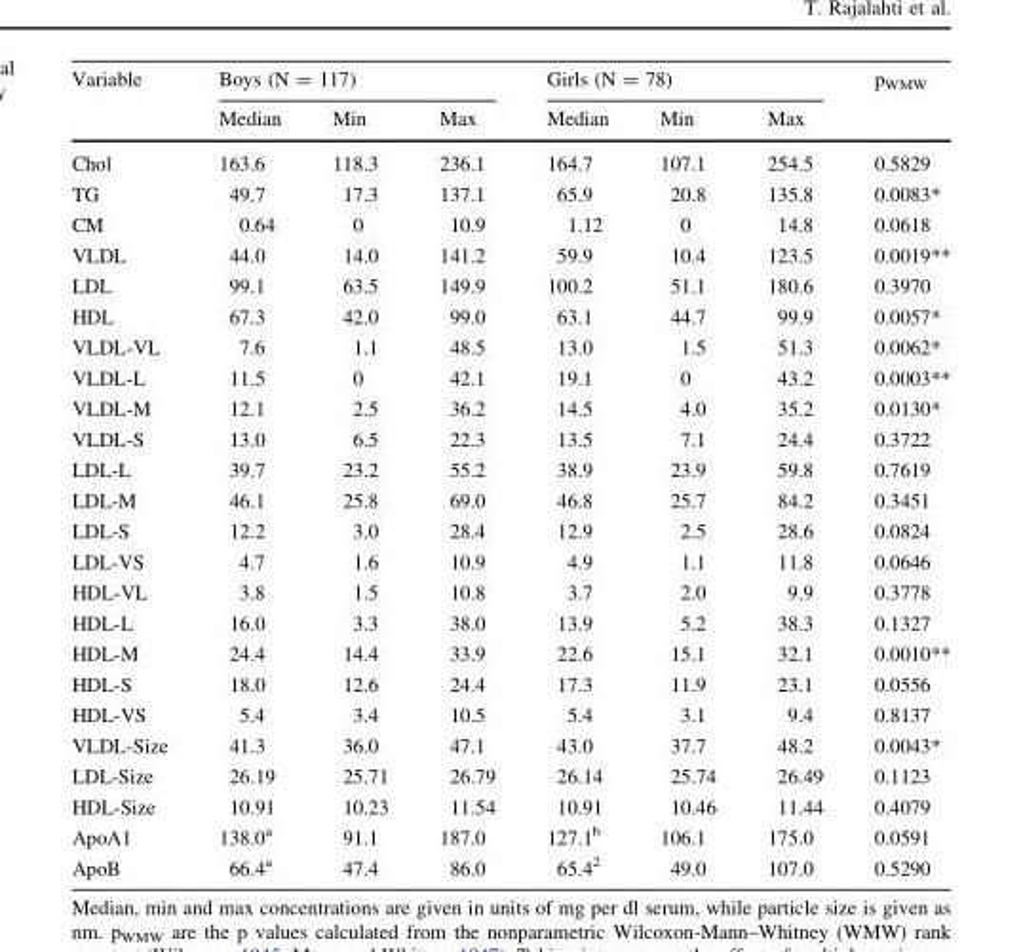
<table><thead><tr><td rowspan="2">Variable</td><td colspan="3">Boys (N = 117)</td><td colspan="3">Girls (N = 78)</td><td rowspan="2">p<sub>WMW</sub></td></tr><tr><td>Median</td><td>Min</td><td>Max</td><td>Median</td><td>Min</td><td>Max</td></tr></thead><tbody><tr><td>Chol</td><td>163.6</td><td>118.3</td><td>236.1</td><td>164.7</td><td>107.1</td><td>254.5</td><td>0.5829</td></tr><tr><td>TG</td><td>49.7</td><td>17.3</td><td>137.1</td><td>65.9</td><td>20.8</td><td>135.8</td><td>0.0083*</td></tr><tr><td>CM</td><td>0.64</td><td>0</td><td>10.9</td><td>1.12</td><td>0</td><td>14.8</td><td>0.0618</td></tr><tr><td>VLDL</td><td>44.0</td><td>14.0</td><td>141.2</td><td>59.9</td><td>10.4</td><td>123.5</td><td>0.0019**</td></tr><tr><td>LDL</td><td>99.1</td><td>63.5</td><td>149.9</td><td>100.2</td><td>51.1</td><td>180.6</td><td>0.3970</td></tr><tr><td>HDL</td><td>67.3</td><td>42.0</td><td>99.0</td><td>63.1</td><td>44.7</td><td>99.9</td><td>0.0057*</td></tr><tr><td>VLDL-VL</td><td>7.6</td><td>1.1</td><td>48.5</td><td>13.0</td><td>1.5</td><td>51.3</td><td>0.0062*</td></tr><tr><td>VLDL-L</td><td>11.5</td><td>0</td><td>42.1</td><td>19.1</td><td>0</td><td>43.2</td><td>0.0003**</td></tr><tr><td>VLDL-M</td><td>12.1</td><td>2.5</td><td>36.2</td><td>14.5</td><td>4.0</td><td>35.2</td><td>0.0130*</td></tr><tr><td>VLDL-S</td><td>13.0</td><td>6.5</td><td>22.3</td><td>13.5</td><td>7.1</td><td>24.4</td><td>0.3722</td></tr><tr><td>LDL-L</td><td>39.7</td><td>23.2</td><td>55.2</td><td>38.9</td><td>23.9</td><td>59.8</td><td>0.7619</td></tr><tr><td>LDL-M</td><td>46.1</td><td>25.8</td><td>69.0</td><td>46.8</td><td>25.7</td><td>84.2</td><td>0.3451</td></tr><tr><td>LDL-S</td><td>12.2</td><td>3.0</td><td>28.4</td><td>12.9</td><td>2.5</td><td>28.6</td><td>0.0824</td></tr><tr><td>LDL-VS</td><td>4.7</td><td>1.6</td><td>10.9</td><td>4.9</td><td>1.1</td><td>11.8</td><td>0.0646</td></tr><tr><td>HDL-VL</td><td>3.8</td><td>1.5</td><td>10.8</td><td>3.7</td><td>2.0</td><td>9.9</td><td>0.3778</td></tr><tr><td>HDL-L</td><td>16.0</td><td>3.3</td><td>38.0</td><td>13.9</td><td>5.2</td><td>38.3</td><td>0.1327</td></tr><tr><td>HDL-M</td><td>24.4</td><td>14.4</td><td>33.9</td><td>22.6</td><td>15.1</td><td>32.1</td><td>0.0010**</td></tr><tr><td>HDL-S</td><td>18.0</td><td>12.6</td><td>24.4</td><td>17.3</td><td>11.9</td><td>23.1</td><td>0.0556</td></tr><tr><td>HDL-VS</td><td>5.4</td><td>3.4</td><td>10.5</td><td>5.4</td><td>3.1</td><td>9.4</td><td>0.8137</td></tr><tr><td>VLDL-Size</td><td>41.3</td><td>36.0</td><td>47.1</td><td>43.0</td><td>37.7</td><td>48.2</td><td>0.0043*</td></tr><tr><td>LDL-Size</td><td>26.19</td><td>25.71</td><td>26.79</td><td>26.14</td><td>25.74</td><td>26.49</td><td>0.1123</td></tr><tr><td>HDL-Size</td><td>10.91</td><td>10.23</td><td>11.54</td><td>10.91</td><td>10.46</td><td>11.44</td><td>0.4079</td></tr><tr><td>ApoA1</td><td>138.0<sup>a</sup></td><td>91.1</td><td>187.0</td><td>127.1<sup>b</sup></td><td>106.1</td><td>175.0</td><td>0.0591</td></tr><tr><td>ApoB</td><td>66.4<sup>a</sup></td><td>47.4</td><td>86.0</td><td>65.4<sup>2</sup></td><td>49.0</td><td>107.0</td><td>0.5290</td></tr></tbody></table>